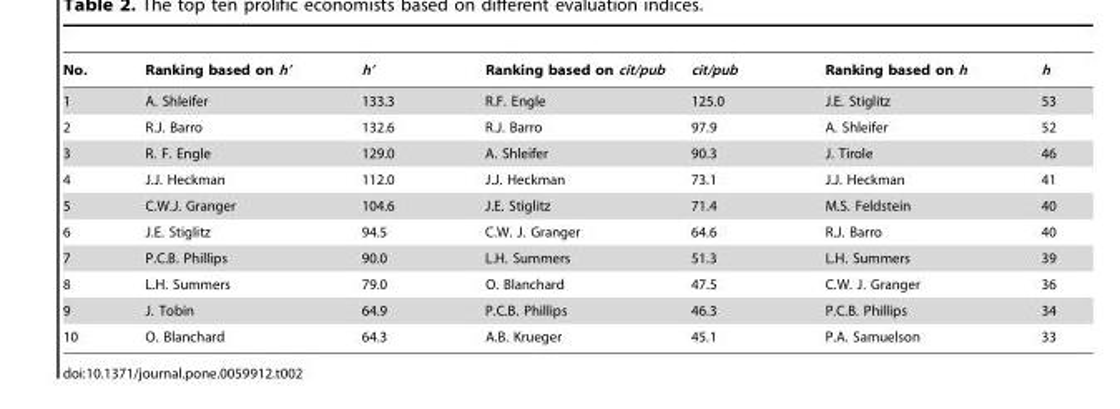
<table><thead><tr><td>No.</td><td>Ranking based on h’</td><td>h’</td><td>Ranking based on cit/pub</td><td>cit/pub</td><td>Ranking based on h</td><td>h</td></tr></thead><tbody><tr><td>1</td><td>A. Shleifer</td><td>133.3</td><td>R.F. Engle</td><td>125.0</td><td>J.E. Stiglitz</td><td>53</td></tr><tr><td>2</td><td>R.J. Barro</td><td>132.6</td><td>R.J. Barro</td><td>97.9</td><td>A. Shleifer</td><td>52</td></tr><tr><td>3</td><td>R. F. Engle</td><td>129.0</td><td>A. Shleifer</td><td>90.3</td><td>J. Tirole</td><td>46</td></tr><tr><td>4</td><td>J.J. Heckman</td><td>112.0</td><td>J.J. Heckman</td><td>73.1</td><td>J.J. Heckman</td><td>41</td></tr><tr><td>5</td><td>C.W.J. Granger</td><td>104.6</td><td>J.E. Stiglitz</td><td>71.4</td><td>M.S. Feldstein</td><td>40</td></tr><tr><td>6</td><td>J.E. Stiglitz</td><td>94.5</td><td>C.W. J. Granger</td><td>64.6</td><td>R.J. Barro</td><td>40</td></tr><tr><td>7</td><td>P.C.B. Phillips</td><td>90.0</td><td>L.H. Summers</td><td>51.3</td><td>L.H. Summers</td><td>39</td></tr><tr><td>8</td><td>L.H. Summers</td><td>79.0</td><td>O. Blanchard</td><td>47.5</td><td>C.W. J. Granger</td><td>36</td></tr><tr><td>9</td><td>J. Tobin</td><td>64.9</td><td>P.C.B. Phillips</td><td>46.3</td><td>P.C.B. Phillips</td><td>34</td></tr><tr><td>10</td><td>O. Blanchard</td><td>64.3</td><td>A.B. Krueger</td><td>45.1</td><td>P.A. Samuelson</td><td>33</td></tr></tbody></table>